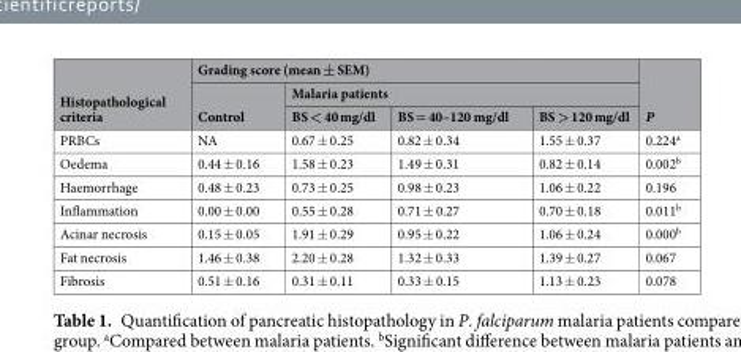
<table><thead><tr><td rowspan="3">Histopathological criteria</td><td colspan="4">Grading score (mean ± SEM)</td><td rowspan="3">P</td></tr><tr><td rowspan="2">Control</td><td colspan="3">Malaria patients</td></tr><tr><td>BS &lt; 40 mg/dl</td><td>BS = 40–120 mg/dl</td><td>BS &gt; 120 mg/dl</td></tr></thead><tbody><tr><td>PRBCs</td><td>NA</td><td>0.67 ± 0.25</td><td>0.82 ± 0.34</td><td>1.55 ± 0.37</td><td>0.224<sup>a</sup></td></tr><tr><td>Oedema</td><td>0.44 ± 0.16</td><td>1.58 ± 0.23</td><td>1.49 ± 0.31</td><td>0.82 ± 0.14</td><td>0.002<sup>b</sup></td></tr><tr><td>Haemorrhage</td><td>0.48 ± 0.23</td><td>0.73 ± 0.25</td><td>0.98 ± 0.23</td><td>1.06 ± 0.22</td><td>0.196</td></tr><tr><td>Inflammation</td><td>0.00 ± 0.00</td><td>0.55 ± 0.28</td><td>0.71 ± 0.27</td><td>0.70 ± 0.18</td><td>0.011<sup>b</sup></td></tr><tr><td>Acinar necrosis</td><td>0.15 ± 0.05</td><td>1.91 ± 0.29</td><td>0.95 ± 0.22</td><td>1.06 ± 0.24</td><td>0.000<sup>b</sup></td></tr><tr><td>Fat necrosis</td><td>1.46 ± 0.38</td><td>2.20 ± 0.28</td><td>1.32 ± 0.33</td><td>1.39 ± 0.27</td><td>0.067</td></tr><tr><td>Fibrosis</td><td>0.51 ± 0.16</td><td>0.31 ± 0.11</td><td>0.33 ± 0.15</td><td>1.13 ± 0.23</td><td>0.078</td></tr></tbody></table>